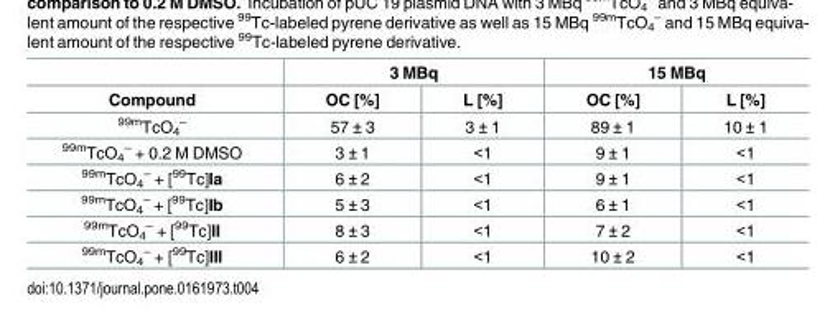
<table><thead><tr><td rowspan="2">Compound</td><td colspan="2">3 MBq</td><td colspan="2">15 MBq</td></tr><tr><td>OC [%]</td><td>L [%]</td><td>OC [%]</td><td>L [%]</td></tr></thead><tbody><tr><td><sup>99m</sup>TcO<sub>4</sub> <sup>–</sup></td><td>57 ± 3</td><td>3 ± 1</td><td>89 ± 1</td><td>10 ± 1</td></tr><tr><td><sup>99m</sup>TcO<sub>4</sub> <sup>–</sup> + 0.2 M DMSO</td><td>3 ± 1</td><td>&lt;1</td><td>9 ± 1</td><td>&lt;1</td></tr><tr><td><sup>99m</sup>TcO<sub>4</sub> <sup>–</sup> + [<sup>99</sup>Tc]Ia</td><td>6 ± 2</td><td>&lt;1</td><td>9 ± 1</td><td>&lt;1</td></tr><tr><td><sup>99m</sup>TcO<sub>4</sub> <sup>–</sup> + [<sup>99</sup>Tc]Ib</td><td>5 ± 3</td><td>&lt;1</td><td>6 ± 1</td><td>&lt;1</td></tr><tr><td><sup>99m</sup>TcO<sub>4</sub> <sup>–</sup> + [<sup>99</sup>Tc]II</td><td>8 ± 3</td><td>&lt;1</td><td>7 ± 2</td><td>&lt;1</td></tr><tr><td><sup>99m</sup>TcO<sub>4</sub> <sup>–</sup> + [<sup>99</sup>Tc]III</td><td>6 ± 2</td><td>&lt;1</td><td>10 ± 2</td><td>&lt;1</td></tr></tbody></table>